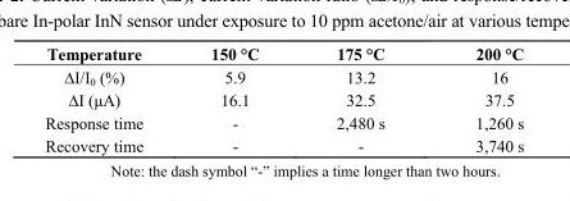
<table><thead><tr><td>Temperature</td><td>150 °C</td><td>175 °C</td><td>200 °C</td></tr></thead><tbody><tr><td>∆I/I0 (%)</td><td>5.9</td><td>13.2</td><td>16</td></tr><tr><td>∆I (μA)</td><td>16.1</td><td>32.5</td><td>37.5</td></tr><tr><td>Response time</td><td>-</td><td>2,480 s</td><td>1,260 s</td></tr><tr><td>Recovery time</td><td>-</td><td>-</td><td>3,740 s</td></tr></tbody></table>